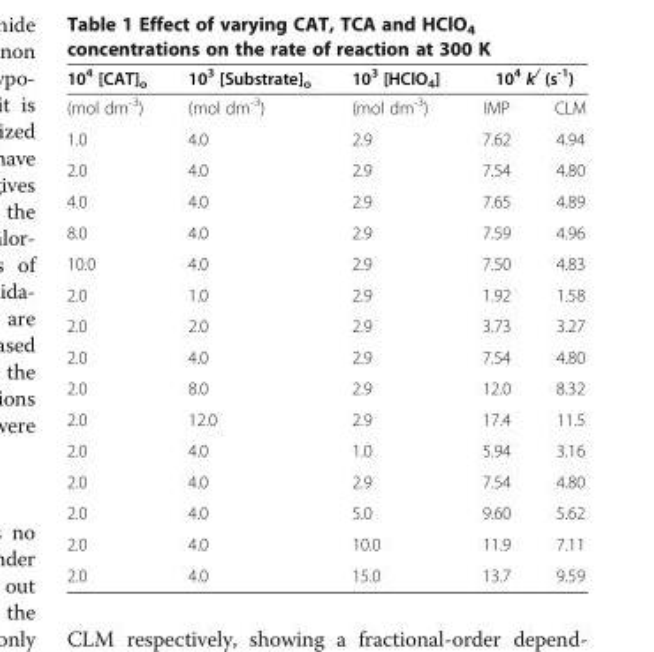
<table><thead><tr><td rowspan="2">10<sup>4</sup> [CAT]<sub>o</sub> (mol dm<sup>-3</sup>)</td><td rowspan="2">10<sup>3</sup> [Substrate]<sub>o</sub> (mol dm<sup>-3</sup>)</td><td rowspan="2">10<sup>3</sup> [HClO<sub>4</sub>] (mol dm<sup>-3</sup>)</td><td colspan="2">10<sup>4</sup> k<sup>/</sup> (s<sup>-1</sup>)</td></tr><tr><td>IMP</td><td>CLM</td></tr></thead><tbody><tr><td>1.0</td><td>4.0</td><td>2.9</td><td>7.62</td><td>4.94</td></tr><tr><td>2.0</td><td>4.0</td><td>2.9</td><td>7.54</td><td>4.80</td></tr><tr><td>4.0</td><td>4.0</td><td>2.9</td><td>7.65</td><td>4.89</td></tr><tr><td>8.0</td><td>4.0</td><td>2.9</td><td>7.59</td><td>4.96</td></tr><tr><td>10.0</td><td>4.0</td><td>2.9</td><td>7.50</td><td>4.83</td></tr><tr><td>2.0</td><td>1.0</td><td>2.9</td><td>1.92</td><td>1.58</td></tr><tr><td>2.0</td><td>2.0</td><td>2.9</td><td>3.73</td><td>3.27</td></tr><tr><td>2.0</td><td>4.0</td><td>2.9</td><td>7.54</td><td>4.80</td></tr><tr><td>2.0</td><td>8.0</td><td>2.9</td><td>12.0</td><td>8.32</td></tr><tr><td>2.0</td><td>12.0</td><td>2.9</td><td>17.4</td><td>11.5</td></tr><tr><td>2.0</td><td>4.0</td><td>1.0</td><td>5.94</td><td>3.16</td></tr><tr><td>2.0</td><td>4.0</td><td>2.9</td><td>7.54</td><td>4.80</td></tr><tr><td>2.0</td><td>4.0</td><td>5.0</td><td>9.60</td><td>5.62</td></tr><tr><td>2.0</td><td>4.0</td><td>10.0</td><td>11.9</td><td>7.11</td></tr><tr><td>2.0</td><td>4.0</td><td>15.0</td><td>13.7</td><td>9.59</td></tr></tbody></table>